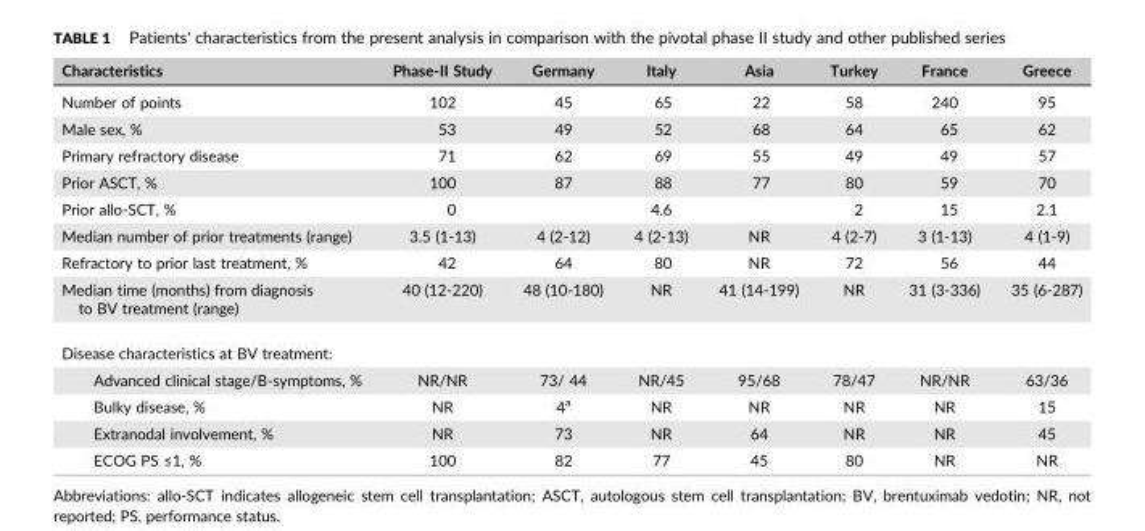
<table><thead><tr><td>Characteristics</td><td>Phase‐II Study</td><td>Germany</td><td>Italy</td><td>Asia</td><td>Turkey</td><td>France</td><td>Greece</td></tr></thead><tbody><tr><td>Number of points</td><td>102</td><td>45</td><td>65</td><td>22</td><td>58</td><td>240</td><td>95</td></tr><tr><td>Male sex, %</td><td>53</td><td>49</td><td>52</td><td>68</td><td>64</td><td>65</td><td>62</td></tr><tr><td>Primary refractory disease</td><td>71</td><td>62</td><td>69</td><td>55</td><td>49</td><td>49</td><td>57</td></tr><tr><td>Prior ASCT, %</td><td>100</td><td>87</td><td>88</td><td>77</td><td>80</td><td>59</td><td>70</td></tr><tr><td>Prior allo‐SCT, %</td><td>0</td><td></td><td>4.6</td><td></td><td>2</td><td>15</td><td>2.1</td></tr><tr><td>Median number of prior treatments (range)</td><td>3.5 (1‐13)</td><td>4 (2‐12)</td><td>4 (2‐13)</td><td>NR</td><td>4 (2‐7)</td><td>3 (1‐13)</td><td>4 (1‐9)</td></tr><tr><td>Refractory to prior last treatment, %</td><td>42</td><td>64</td><td>80</td><td>NR</td><td>72</td><td>56</td><td>44</td></tr><tr><td>Median time (months) from diagnosis to BV treatment (range)</td><td>40 (12‐220)</td><td>48 (10‐180)</td><td>NR</td><td>41 (14‐199)</td><td>NR</td><td>31 (3‐336)</td><td>35 (6‐287)</td></tr><tr><td colspan="8">Disease characteristics at BV treatment:</td></tr><tr><td>Advanced clinical stage/B‐symptoms, %</td><td>NR/NR</td><td>73/ 44</td><td>NR/45</td><td>95/68</td><td>78/47</td><td>NR/NR</td><td>63/36</td></tr><tr><td>Bulky disease, %</td><td>NR</td><td>4<sup>a</sup></td><td>NR</td><td>NR</td><td>NR</td><td>NR</td><td>15</td></tr><tr><td>Extranodal involvement, %</td><td>NR</td><td>73</td><td>NR</td><td>64</td><td>NR</td><td>NR</td><td>45</td></tr><tr><td>ECOG PS ≤1, %</td><td>100</td><td>82</td><td>77</td><td>45</td><td>80</td><td>NR</td><td>NR</td></tr></tbody></table>